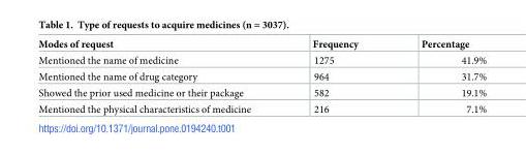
<table><thead><tr><td>Modes of request</td><td>Frequency</td><td>Percentage</td></tr></thead><tbody><tr><td>Mentioned the name of medicine</td><td>1275</td><td>41.9%</td></tr><tr><td>Mentioned the name of drug category</td><td>964</td><td>31.7%</td></tr><tr><td>Showed the prior used medicine or their package</td><td>582</td><td>19.1%</td></tr><tr><td>Mentioned the physical characteristics of medicine</td><td>216</td><td>7.1%</td></tr></tbody></table>